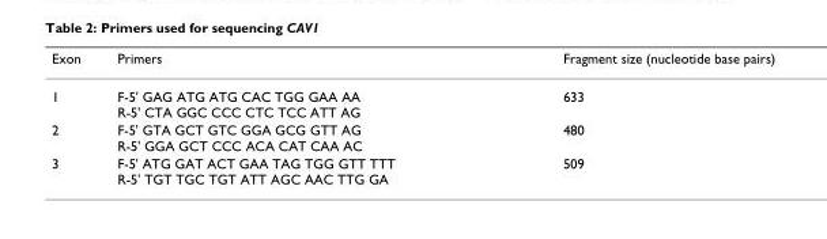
<table><thead><tr><td>Exon</td><td>Primers</td><td>Fragment size (nucleotide base pairs)</td></tr></thead><tbody><tr><td>1</td><td>F-5&#x27; GAG ATG ATG CAC TGG GAA AA R-5&#x27; CTA GGC CCC CTC TCC ATT AG</td><td>633</td></tr><tr><td>2</td><td>F-5&#x27; GTA GCT GTC GGA GCG GTT AG R-5&#x27; GGA GCT CCC ACA CAT CAA AC</td><td>480</td></tr><tr><td>3</td><td>F-5&#x27; ATG GAT ACT GAA TAG TGG GTT TTT R-5&#x27; TGT TGC TGT ATT AGC AAC TTG GA</td><td>509</td></tr></tbody></table>